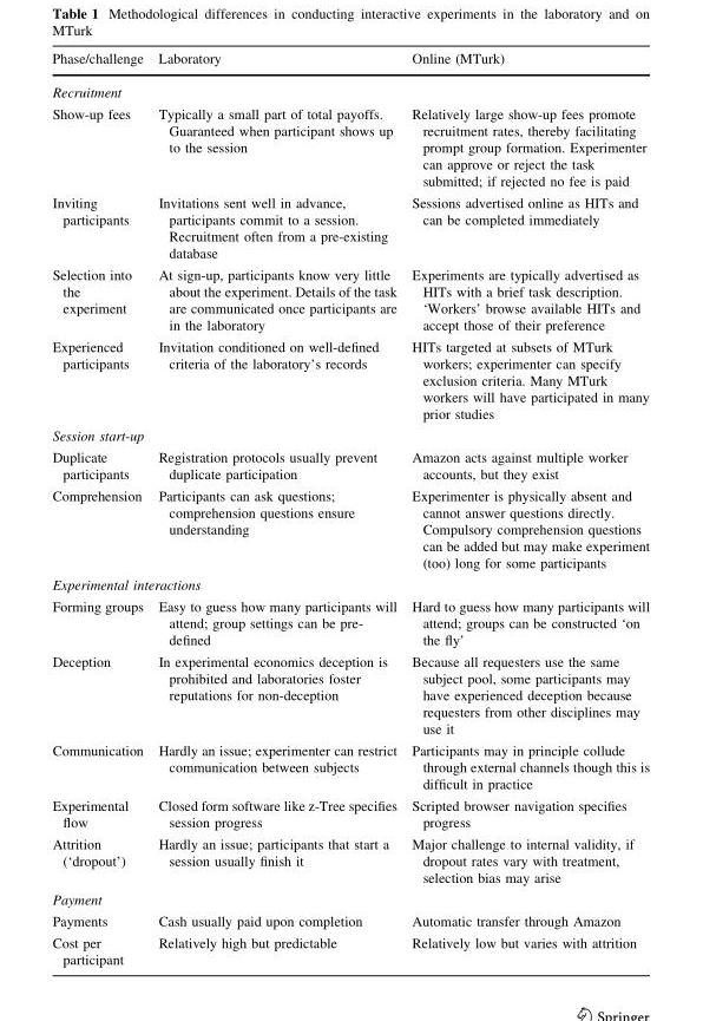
<table><thead><tr><td>Phase/challenge</td><td>Laboratory</td><td>Online (MTurk)</td></tr></thead><tbody><tr><td colspan="3">Recruitment</td></tr><tr><td>Show-up fees</td><td>Typically a small part of total payoffs. Guaranteed when participant shows up to the session</td><td>Relatively large show-up fees promote recruitment rates, thereby facilitating prompt group formation. Experimenter can approve or reject the task submitted; if rejected no fee is paid</td></tr><tr><td>Inviting participants</td><td>Invitations sent well in advance, participants commit to a session. Recruitment often from a pre-existing database</td><td>Sessions advertised online as HITs and can be completed immediately</td></tr><tr><td>Selection into the experiment</td><td>At sign-up, participants know very little about the experiment. Details of the task are communicated once participants are in the laboratory</td><td>Experiments are typically advertised as HITs with a brief task description. ‘Workers’ browse available HITs and accept those of their preference</td></tr><tr><td>Experienced participants</td><td>Invitation conditioned on well-defined criteria of the laboratory’s records</td><td>HITs targeted at subsets of MTurk workers; experimenter can specify exclusion criteria. Many MTurk workers will have participated in many prior studies</td></tr><tr><td colspan="3">Session start-up</td></tr><tr><td>Duplicate participants</td><td>Registration protocols usually prevent duplicate participation</td><td>Amazon acts against multiple worker accounts, but they exist</td></tr><tr><td>Comprehension</td><td>Participants can ask questions; comprehension questions ensure understanding</td><td>Experimenter is physically absent and cannot answer questions directly. Compulsory comprehension questions can be added but may make experiment (too) long for some participants</td></tr><tr><td colspan="3">Experimental interactions</td></tr><tr><td>Forming groups</td><td>Easy to guess how many participants will attend; group settings can be pre- defined</td><td>Hard to guess how many participants will attend; groups can be constructed ‘on the fly’</td></tr><tr><td>Deception</td><td>In experimental economics deception is prohibited and laboratories foster reputations for non-deception</td><td>Because all requesters use the same subject pool, some participants may have experienced deception because requesters from other disciplines may use it</td></tr><tr><td>Communication</td><td>Hardly an issue; experimenter can restrict communication between subjects</td><td>Participants may in principle collude through external channels though this is difficult in practice</td></tr><tr><td>Experimental flow</td><td>Closed form software like z-Tree specifies session progress</td><td>Scripted browser navigation specifies progress</td></tr><tr><td>Attrition (‘dropout’)</td><td>Hardly an issue; participants that start a session usually finish it</td><td>Major challenge to internal validity, if dropout rates vary with treatment, selection bias may arise</td></tr><tr><td colspan="3">Payment</td></tr><tr><td>Payments</td><td>Cash usually paid upon completion</td><td>Automatic transfer through Amazon</td></tr><tr><td>Cost per participant</td><td>Relatively high but predictable</td><td>Relatively low but varies with attrition</td></tr></tbody></table>